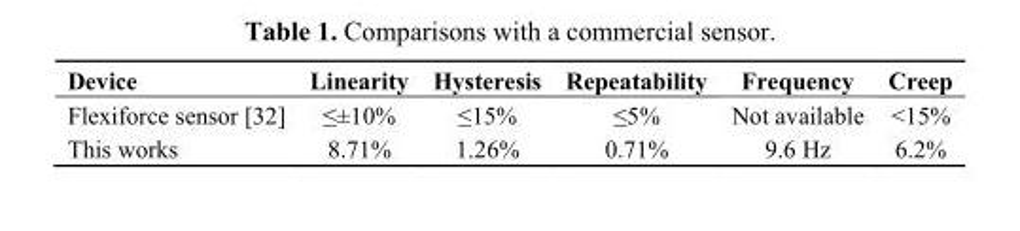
<table><thead><tr><td>Device</td><td>Linearity</td><td>Hysteresis</td><td>Repeatability</td><td>Frequency</td><td>Creep</td></tr></thead><tbody><tr><td>Flexiforce sensor [32]</td><td>≤±10%</td><td>≤15%</td><td>≤5%</td><td>Not available</td><td>&lt;15%</td></tr><tr><td>This works</td><td>8.71%</td><td>1.26%</td><td>0.71%</td><td>9.6 Hz</td><td>6.2%</td></tr></tbody></table>